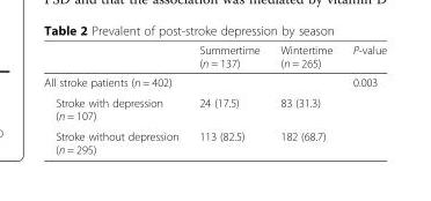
<table><thead><tr><td></td><td>Summertime (n = 137)</td><td>Wintertime (n = 265)</td><td>P-value</td></tr></thead><tbody><tr><td>All stroke patients (n = 402)</td><td></td><td></td><td>0.003</td></tr><tr><td>Stroke with depression (n = 107)</td><td>24 (17.5)</td><td>83 (31.3)</td><td></td></tr><tr><td>Stroke without depression (n = 295)</td><td>113 (82.5)</td><td>182 (68.7)</td><td></td></tr></tbody></table>